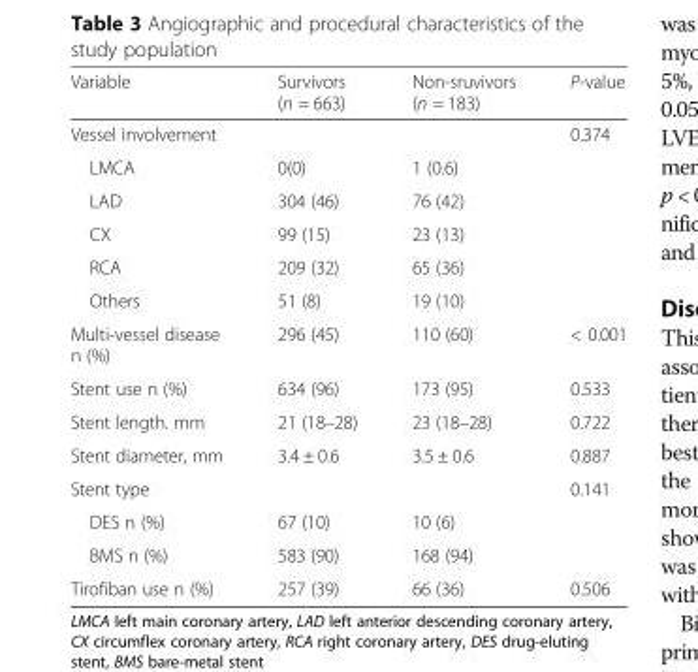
<table><thead><tr><td>Variable</td><td>Survivors (n = 663)</td><td>Non-sruvivors (n = 183)</td><td>P-value</td></tr></thead><tbody><tr><td>Vessel involvement</td><td></td><td></td><td>0.374</td></tr><tr><td>LMCA</td><td>0(0)</td><td>1 (0.6)</td><td></td></tr><tr><td>LAD</td><td>304 (46)</td><td>76 (42)</td><td></td></tr><tr><td>CX</td><td>99 (15)</td><td>23 (13)</td><td></td></tr><tr><td>RCA</td><td>209 (32)</td><td>65 (36)</td><td></td></tr><tr><td>Others</td><td>51 (8)</td><td>19 (10)</td><td></td></tr><tr><td>Multi-vessel disease n (%)</td><td>296 (45)</td><td>110 (60)</td><td>&lt; 0.001</td></tr><tr><td>Stent use n (%)</td><td>634 (96)</td><td>173 (95)</td><td>0.533</td></tr><tr><td>Stent length. mm</td><td>21 (18–28)</td><td>23 (18–28)</td><td>0.722</td></tr><tr><td>Stent diameter, mm</td><td>3.4 ± 0.6</td><td>3.5 ± 0.6</td><td>0.887</td></tr><tr><td>Stent type</td><td></td><td></td><td>0.141</td></tr><tr><td>DES n (%)</td><td>67 (10)</td><td>10 (6)</td><td></td></tr><tr><td>BMS n (%)</td><td>583 (90)</td><td>168 (94)</td><td></td></tr><tr><td>Tirofiban use n (%)</td><td>257 (39)</td><td>66 (36)</td><td>0.506</td></tr></tbody></table>